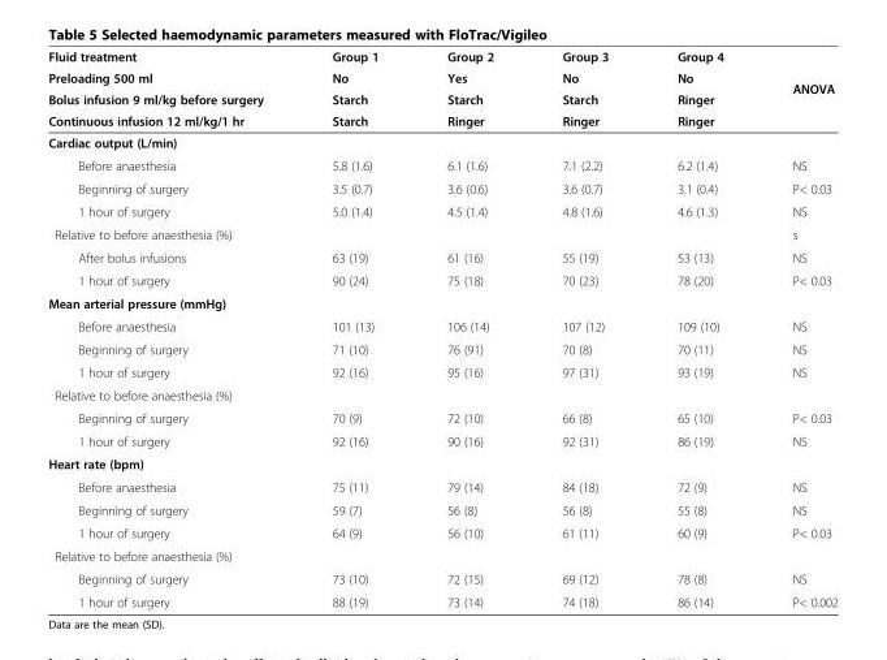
<table><thead><tr><td rowspan="4">Fluid treatment Preloading 500 ml Bolus infusion 9 ml/kg before surgery Continuous infusion 12 ml/kg/1 hr</td><td rowspan="4">Group 1 No Starch Starch</td><td rowspan="4">Group 2 Yes Starch Ringer</td><td rowspan="4">Group 3 No Starch Ringer</td><td rowspan="4">Group 4 No Ringer Ringer</td><td rowspan="4">ANOVA</td></tr><tr></tr><tr></tr><tr></tr></thead><tbody><tr><td colspan="6">Cardiac output (L/min)</td></tr><tr><td>Before anaesthesia</td><td>5.8 (1.6)</td><td>6.1 (1.6)</td><td>7.1 (2.2)</td><td>6.2 (1.4)</td><td>NS</td></tr><tr><td>Beginning of surgery</td><td>3.5 (0.7)</td><td>3.6 (0.6)</td><td>3.6 (0.7)</td><td>3.1 (0.4)</td><td>P&lt; 0.03</td></tr><tr><td>1 hour of surgery</td><td>5.0 (1.4)</td><td>4.5 (1.4)</td><td>4.8 (1.6)</td><td>4.6 (1.3)</td><td>NS</td></tr><tr><td>Relative to before anaesthesia (%)</td><td></td><td></td><td></td><td></td><td>s</td></tr><tr><td>After bolus infusions</td><td>63 (19)</td><td>61 (16)</td><td>55 (19)</td><td>53 (13)</td><td>NS</td></tr><tr><td>1 hour of surgery</td><td>90 (24)</td><td>75 (18)</td><td>70 (23)</td><td>78 (20)</td><td>P&lt; 0.03</td></tr><tr><td colspan="6">Mean arterial pressure (mmHg)</td></tr><tr><td>Before anaesthesia</td><td>101 (13)</td><td>106 (14)</td><td>107 (12)</td><td>109 (10)</td><td>NS</td></tr><tr><td>Beginning of surgery</td><td>71 (10)</td><td>76 (91)</td><td>70 (8)</td><td>70 (11)</td><td>NS</td></tr><tr><td>1 hour of surgery</td><td>92 (16)</td><td>95 (16)</td><td>97 (31)</td><td>93 (19)</td><td>NS</td></tr><tr><td colspan="6">Relative to before anaesthesia (%)</td></tr><tr><td>Beginning of surgery</td><td>70 (9)</td><td>72 (10)</td><td>66 (8)</td><td>65 (10)</td><td>P&lt; 0.03</td></tr><tr><td>1 hour of surgery</td><td>92 (16)</td><td>90 (16)</td><td>92 (31)</td><td>86 (19)</td><td>NS</td></tr><tr><td colspan="6">Heart rate (bpm)</td></tr><tr><td>Before anaesthesia</td><td>75 (11)</td><td>79 (14)</td><td>84 (18)</td><td>72 (9)</td><td>NS</td></tr><tr><td>Beginning of surgery</td><td>59 (7)</td><td>56 (8)</td><td>56 (8)</td><td>55 (8)</td><td>NS</td></tr><tr><td>1 hour of surgery</td><td>64 (9)</td><td>56 (10)</td><td>61 (11)</td><td>60 (9)</td><td>P&lt; 0.03</td></tr><tr><td colspan="6">Relative to before anaesthesia (%)</td></tr><tr><td>Beginning of surgery</td><td>73 (10)</td><td>72 (15)</td><td>69 (12)</td><td>78 (8)</td><td>NS</td></tr><tr><td>1 hour of surgery</td><td>88 (19)</td><td>73 (14)</td><td>74 (18)</td><td>86 (14)</td><td>P&lt; 0.002</td></tr></tbody></table>